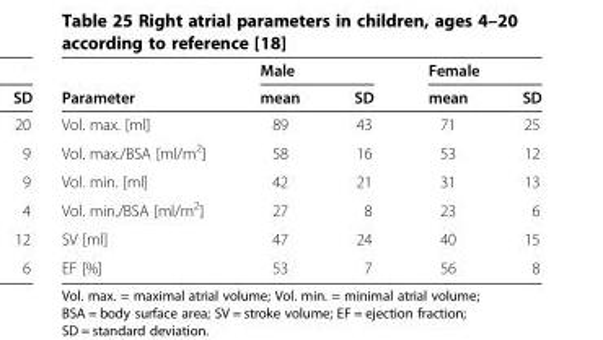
<table><thead><tr><td rowspan="2">Parameter</td><td colspan="2">Male</td><td colspan="2">Female</td></tr><tr><td>mean</td><td>SD</td><td>mean</td><td>SD</td></tr></thead><tbody><tr><td>Vol. max. [ml]</td><td>89</td><td>43</td><td>71</td><td>25</td></tr><tr><td>Vol. max./BSA [ml/m<sup>2</sup>]</td><td>58</td><td>16</td><td>53</td><td>12</td></tr><tr><td>Vol. min. [ml]</td><td>42</td><td>21</td><td>31</td><td>13</td></tr><tr><td>Vol. min./BSA [ml/m<sup>2</sup>]</td><td>27</td><td>8</td><td>23</td><td>6</td></tr><tr><td>SV [ml]</td><td>47</td><td>24</td><td>40</td><td>15</td></tr><tr><td>EF [%]</td><td>53</td><td>7</td><td>56</td><td>8</td></tr></tbody></table>